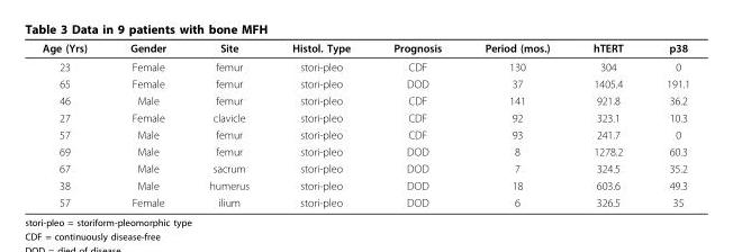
<table><thead><tr><td>Age (Yrs)</td><td>Gender</td><td>Site</td><td>Histol. Type</td><td>Prognosis</td><td>Period (mos.)</td><td>hTERT</td><td>p38</td></tr></thead><tbody><tr><td>23</td><td>Female</td><td>femur</td><td>stori-pleo</td><td>CDF</td><td>130</td><td>304</td><td>0</td></tr><tr><td>65</td><td>Female</td><td>femur</td><td>stori-pleo</td><td>DOD</td><td>37</td><td>1405.4</td><td>191.1</td></tr><tr><td>46</td><td>Male</td><td>femur</td><td>stori-pleo</td><td>CDF</td><td>141</td><td>921.8</td><td>36.2</td></tr><tr><td>27</td><td>Female</td><td>clavicle</td><td>stori-pleo</td><td>CDF</td><td>92</td><td>323.1</td><td>10.3</td></tr><tr><td>57</td><td>Male</td><td>femur</td><td>stori-pleo</td><td>CDF</td><td>93</td><td>241.7</td><td>0</td></tr><tr><td>69</td><td>Male</td><td>femur</td><td>stori-pleo</td><td>DOD</td><td>8</td><td>1278.2</td><td>60.3</td></tr><tr><td>67</td><td>Male</td><td>sacrum</td><td>stori-pleo</td><td>DOD</td><td>7</td><td>324.5</td><td>35.2</td></tr><tr><td>38</td><td>Male</td><td>humerus</td><td>stori-pleo</td><td>DOD</td><td>18</td><td>603.6</td><td>49.3</td></tr><tr><td>57</td><td>Female</td><td>ilium</td><td>stori-pleo</td><td>DOD</td><td>6</td><td>326.5</td><td>35</td></tr></tbody></table>